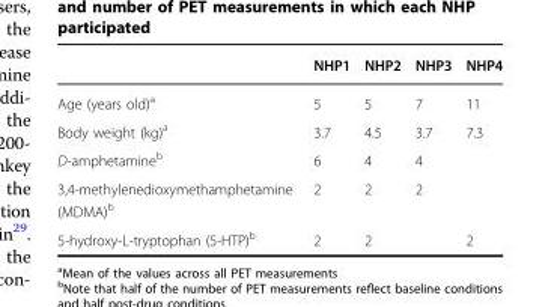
<table><thead><tr><td></td><td>NHP1</td><td>NHP2</td><td>NHP3</td><td>NHP4</td></tr></thead><tbody><tr><td>Age (years old)<sup>a</sup></td><td>5</td><td>5</td><td>7</td><td>11</td></tr><tr><td>Body weight (kg)<sup>a</sup></td><td>3.7</td><td>4.5</td><td>3.7</td><td>7.3</td></tr><tr><td>D-amphetamine<sup>b</sup></td><td>6</td><td>4</td><td>4</td><td></td></tr><tr><td>3,4-methylenedioxymethamphetamine (MDMA)<sup>b</sup></td><td>2</td><td>2</td><td>2</td><td></td></tr><tr><td>5-hydroxy-L-tryptophan (5-HTP)<sup>b</sup></td><td>2</td><td>2</td><td></td><td>2</td></tr></tbody></table>